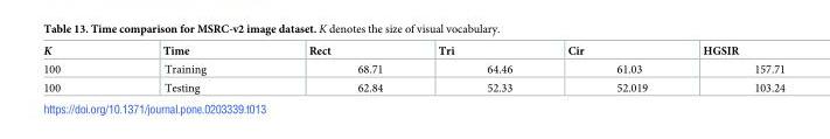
<table><thead><tr><td>K</td><td>Time</td><td>Rect</td><td>Tri</td><td>Cir</td><td>HGSIR</td></tr></thead><tbody><tr><td>100</td><td>Training</td><td>68.71</td><td>64.46</td><td>61.03</td><td>157.71</td></tr><tr><td>100</td><td>Testing</td><td>62.84</td><td>52.33</td><td>52.019</td><td>103.24</td></tr></tbody></table>